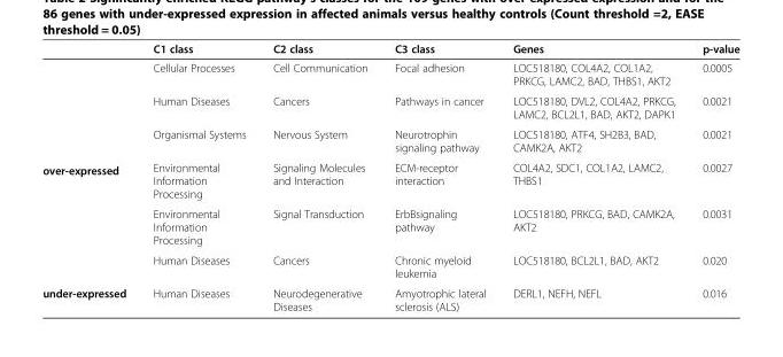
<table><thead><tr><td></td><td>C1 class</td><td>C2 class</td><td>C3 class</td><td>Genes</td><td>p-value</td></tr></thead><tbody><tr><td rowspan="6">over-expressed</td><td>Cellular Processes</td><td>Cell Communication</td><td>Focal adhesion</td><td>LOC518180, COL4A2, COL1A2, PRKCG, LAMC2, BAD, THBS1, AKT2</td><td>0.0005</td></tr><tr><td>Human Diseases</td><td>Cancers</td><td>Pathways in cancer</td><td>LOC518180, DVL2, COL4A2, PRKCG, LAMC2, BCL2L1, BAD, AKT2, DAPK1</td><td>0.0021</td></tr><tr><td>Organismal Systems</td><td>Nervous System</td><td>Neurotrophin signaling pathway</td><td>LOC518180, ATF4, SH2B3, BAD, CAMK2A, AKT2</td><td>0.0021</td></tr><tr><td>Environmental Information Processing</td><td>Signaling Molecules and Interaction</td><td>ECM-receptor interaction</td><td>COL4A2, SDC1, COL1A2, LAMC2, THBS1</td><td>0.0027</td></tr><tr><td>Environmental Information Processing</td><td>Signal Transduction</td><td>ErbBsignaling pathway</td><td>LOC518180, PRKCG, BAD, CAMK2A, AKT2</td><td>0.0031</td></tr><tr><td>Human Diseases</td><td>Cancers</td><td>Chronic myeloid leukemia</td><td>LOC518180, BCL2L1, BAD, AKT2</td><td>0.020</td></tr><tr><td>under-expressed</td><td>Human Diseases</td><td>Neurodegenerative Diseases</td><td>Amyotrophic lateral sclerosis (ALS)</td><td>DERL1, NEFH, NEFL</td><td>0.016</td></tr></tbody></table>